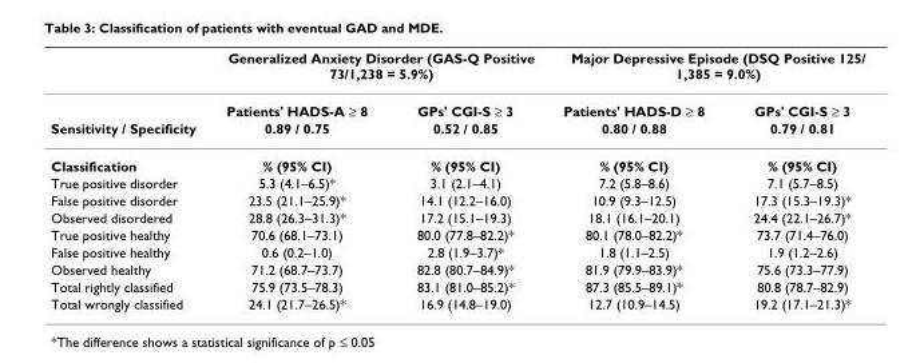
<table><thead><tr><td rowspan="2"></td><td colspan="2">Generalized Anxiety Disorder (GAS-Q Positive 73/1,238 = 5.9%)</td><td colspan="2">Major Depressive Episode (DSQ Positive 125/ 1,385 = 9.0%)</td></tr><tr><td>Patients&#x27; HADS-A ≥ 8</td><td>GPs&#x27; CGI-S ≥ 3</td><td>Patients&#x27; HADS-D ≥ 8</td><td>GPs&#x27; CGI-S ≥ 3</td></tr></thead><tbody><tr><td>Sensitivity / Specificity</td><td>0.89 / 0.75</td><td>0.52 / 0.85</td><td>0.80 / 0.88</td><td>0.79 / 0.81</td></tr><tr><td>Classification</td><td>% (95% CI)</td><td>% (95% CI)</td><td>% (95% CI)</td><td>% (95% CI)</td></tr><tr><td>True positive disorder</td><td>5.3 (4.1–6.5)*</td><td>3.1 (2.1–4.1)</td><td>7.2 (5.8–8.6)</td><td>7.1 (5.7–8.5)</td></tr><tr><td>False positive disorder</td><td>23.5 (21.1–25.9)*</td><td>14.1 (12.2–16.0)</td><td>10.9 (9.3–12.5)</td><td>17.3 (15.3–19.3)*</td></tr><tr><td>Observed disordered</td><td>28.8 (26.3–31.3)*</td><td>17.2 (15.1–19.3)</td><td>18.1 (16.1–20.1)</td><td>24.4 (22.1–26.7)*</td></tr><tr><td>True positive healthy</td><td>70.6 (68.1–73.1)</td><td>80.0 (77.8–82.2)*</td><td>80.1 (78.0–82.2)*</td><td>73.7 (71.4–76.0)</td></tr><tr><td>False positive healthy</td><td>0.6 (0.2–1.0)</td><td>2.8 (1.9–3.7)*</td><td>1.8 (1.1–2.5)</td><td>1.9 (1.2–2.6)</td></tr><tr><td>Observed healthy</td><td>71.2 (68.7–73.7)</td><td>82.8 (80.7–84.9)*</td><td>81.9 (79.9–83.9)*</td><td>75.6 (73.3–77.9)</td></tr><tr><td>Total rightly classified</td><td>75.9 (73.5–78.3)</td><td>83.1 (81.0–85.2)*</td><td>87.3 (85.5–89.1)*</td><td>80.8 (78.7–82.9)</td></tr><tr><td>Total wrongly classified</td><td>24.1 (21.7–26.5)*</td><td>16.9 (14.8–19.0)</td><td>12.7 (10.9–14.5)</td><td>19.2 (17.1–21.3)*</td></tr></tbody></table>